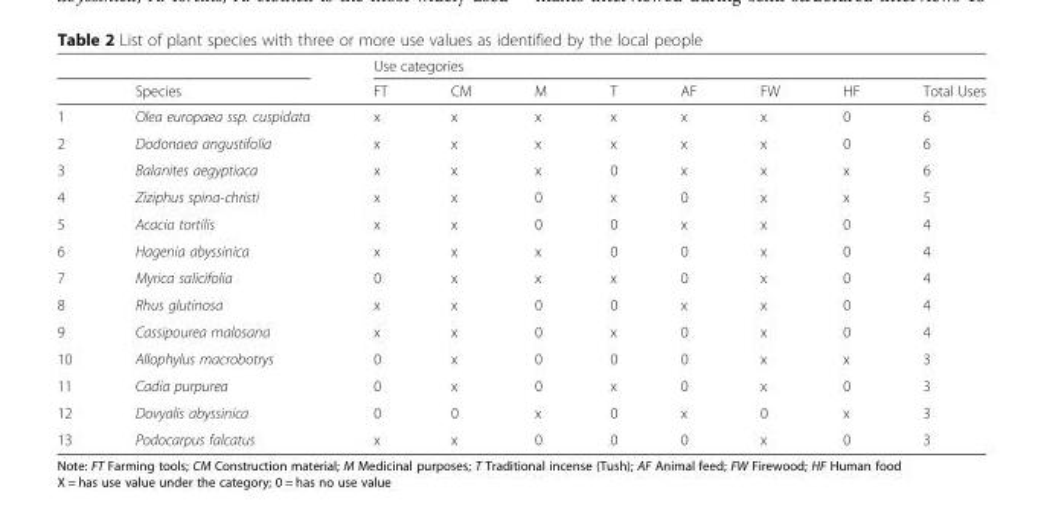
<table><thead><tr><td rowspan="2"></td><td rowspan="2">Species</td><td colspan="8">Use categories</td></tr><tr><td>FT</td><td>CM</td><td>M</td><td>T</td><td>AF</td><td>FW</td><td>HF</td><td>Total Uses</td></tr></thead><tbody><tr><td>1</td><td>Olea europaea ssp. cuspidata</td><td>x</td><td>x</td><td>x</td><td>x</td><td>x</td><td>x</td><td>0</td><td>6</td></tr><tr><td>2</td><td>Dodonaea angustifolia</td><td>x</td><td>x</td><td>x</td><td>x</td><td>x</td><td>x</td><td>0</td><td>6</td></tr><tr><td>3</td><td>Balanites aegyptiaca</td><td>x</td><td>x</td><td>x</td><td>0</td><td>x</td><td>x</td><td>x</td><td>6</td></tr><tr><td>4</td><td>Ziziphus spina-christi</td><td>x</td><td>x</td><td>0</td><td>x</td><td>0</td><td>x</td><td>x</td><td>5</td></tr><tr><td>5</td><td>Acacia tortilis</td><td>x</td><td>x</td><td>0</td><td>0</td><td>x</td><td>x</td><td>0</td><td>4</td></tr><tr><td>6</td><td>Hagenia abyssinica</td><td>x</td><td>x</td><td>x</td><td>0</td><td>0</td><td>x</td><td>0</td><td>4</td></tr><tr><td>7</td><td>Myrica salicifolia</td><td>0</td><td>x</td><td>x</td><td>x</td><td>0</td><td>x</td><td>0</td><td>4</td></tr><tr><td>8</td><td>Rhus glutinosa</td><td>x</td><td>x</td><td>0</td><td>0</td><td>x</td><td>x</td><td>0</td><td>4</td></tr><tr><td>9</td><td>Cassipourea malosana</td><td>x</td><td>x</td><td>0</td><td>x</td><td>0</td><td>x</td><td>0</td><td>4</td></tr><tr><td>10</td><td>Allophylus macrobotrys</td><td>0</td><td>x</td><td>0</td><td>0</td><td>0</td><td>x</td><td>x</td><td>3</td></tr><tr><td>11</td><td>Cadia purpurea</td><td>0</td><td>x</td><td>0</td><td>x</td><td>0</td><td>x</td><td>0</td><td>3</td></tr><tr><td>12</td><td>Dovyalis abyssinica</td><td>0</td><td>0</td><td>x</td><td>0</td><td>x</td><td>0</td><td>x</td><td>3</td></tr><tr><td>13</td><td>Podocarpus falcatus</td><td>x</td><td>x</td><td>0</td><td>0</td><td>0</td><td>x</td><td>0</td><td>3</td></tr></tbody></table>